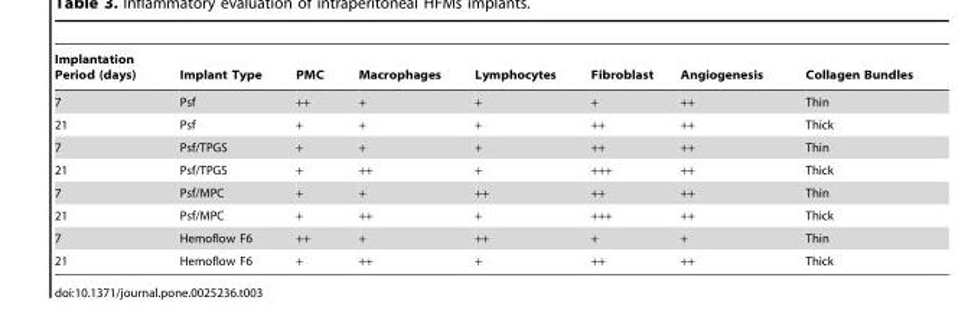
<table><thead><tr><td>Implantation Period (days)</td><td>Implant Type</td><td>PMC</td><td>Macrophages</td><td>Lymphocytes</td><td>Fibroblast</td><td>Angiogenesis</td><td>Collagen Bundles</td></tr></thead><tbody><tr><td>7</td><td>Psf</td><td>++</td><td>+</td><td>+</td><td>+</td><td>++</td><td>Thin</td></tr><tr><td>21</td><td>Psf</td><td>+</td><td>+</td><td>+</td><td>++</td><td>++</td><td>Thick</td></tr><tr><td>7</td><td>Psf/TPGS</td><td>+</td><td>+</td><td>+</td><td>++</td><td>++</td><td>Thin</td></tr><tr><td>21</td><td>Psf/TPGS</td><td>+</td><td>++</td><td>+</td><td>+++</td><td>++</td><td>Thick</td></tr><tr><td>7</td><td>Psf/MPC</td><td>+</td><td>+</td><td>++</td><td>++</td><td>++</td><td>Thin</td></tr><tr><td>21</td><td>Psf/MPC</td><td>+</td><td>++</td><td>+</td><td>+++</td><td>++</td><td>Thick</td></tr><tr><td>7</td><td>Hemoflow F6</td><td>++</td><td>+</td><td>++</td><td>+</td><td>+</td><td>Thin</td></tr><tr><td>21</td><td>Hemoflow F6</td><td>+</td><td>++</td><td>+</td><td>++</td><td>++</td><td>Thick</td></tr></tbody></table>